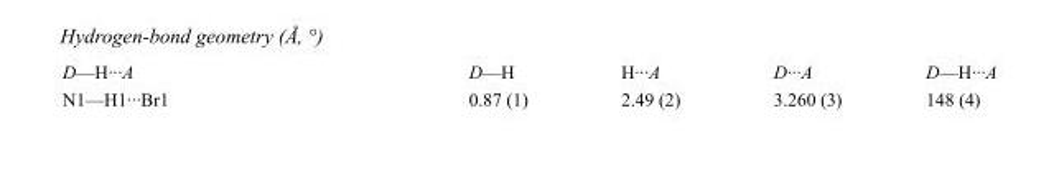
<table><tbody><tr><td>D—H···A</td><td>D—H</td><td>H···A</td><td>D···A</td><td>D—H···A</td></tr><tr><td>N1—H1···Br1</td><td>0.87 (1)</td><td>2.49 (2)</td><td>3.260 (3)</td><td>148 (4)</td></tr></tbody></table>